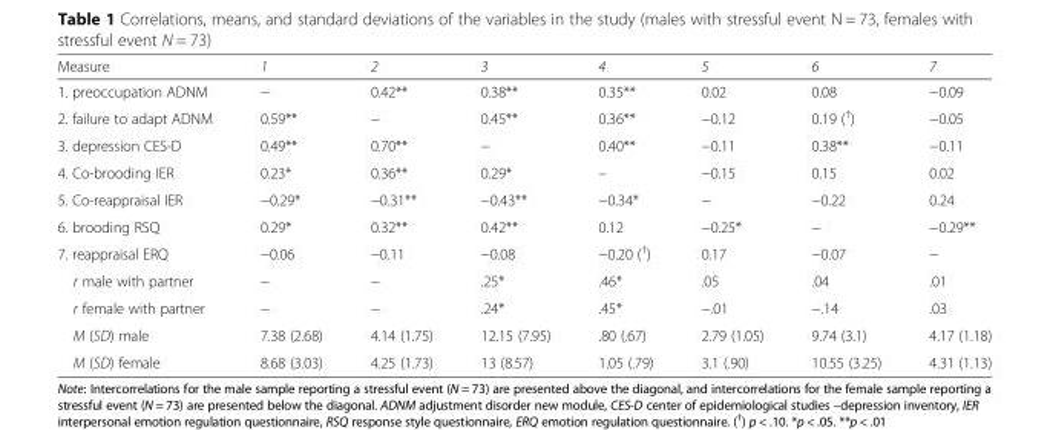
<table><thead><tr><td>Measure</td><td>1</td><td>2</td><td>3</td><td>4</td><td>5</td><td>6</td><td>7</td></tr></thead><tbody><tr><td>1. preoccupation ADNM</td><td>−</td><td>0.42**</td><td>0.38**</td><td>0.35**</td><td>0.02</td><td>0.08</td><td>−0.09</td></tr><tr><td>2. failure to adapt ADNM</td><td>0.59**</td><td>−</td><td>0.45**</td><td>0.36**</td><td>−0.12</td><td>0.19 (<sup>†</sup>)</td><td>−0.05</td></tr><tr><td>3. depression CES-D</td><td>0.49**</td><td>0.70**</td><td>−</td><td>0.40**</td><td>−0.11</td><td>0.38**</td><td>−0.11</td></tr><tr><td>4. Co-brooding IER</td><td>0.23*</td><td>0.36**</td><td>0.29*</td><td>–</td><td>−0.15</td><td>0.15</td><td>0.02</td></tr><tr><td>5. Co-reappraisal IER</td><td>−0.29*</td><td>−0.31**</td><td>−0.43**</td><td>−0.34*</td><td>−</td><td>−0.22</td><td>0.24</td></tr><tr><td>6. brooding RSQ</td><td>0.29*</td><td>0.32**</td><td>0.42**</td><td>0.12</td><td>−0.25*</td><td>−</td><td>−0.29**</td></tr><tr><td>7. reappraisal ERQ</td><td>−0.06</td><td>−0.11</td><td>−0.08</td><td>−0.20 (<sup>†</sup>)</td><td>0.17</td><td>−0.07</td><td>−</td></tr><tr><td>r male with partner</td><td>−</td><td>−</td><td>.25*</td><td>.46*</td><td>.05</td><td>.04</td><td>.01</td></tr><tr><td>r female with partner</td><td>−</td><td>−</td><td>.24*</td><td>.45*</td><td>−.01</td><td>−.14</td><td>.03</td></tr><tr><td>M (SD) male</td><td>7.38 (2.68)</td><td>4.14 (1.75)</td><td>12.15 (7.95)</td><td>.80 (.67)</td><td>2.79 (1.05)</td><td>9.74 (3.1)</td><td>4.17 (1.18)</td></tr><tr><td>M (SD) female</td><td>8.68 (3.03)</td><td>4.25 (1.73)</td><td>13 (8.57)</td><td>1.05 (.79)</td><td>3.1 (.90)</td><td>10.55 (3.25)</td><td>4.31 (1.13)</td></tr></tbody></table>